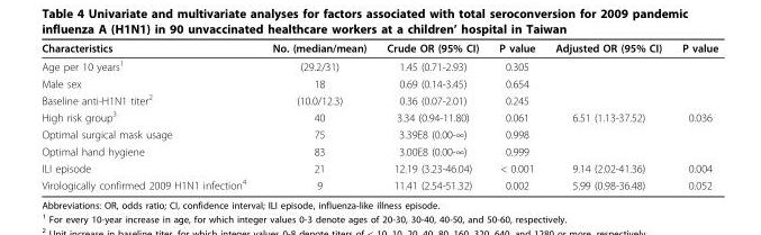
<table><thead><tr><td>Characteristics</td><td>No. (median/mean)</td><td>Crude OR (95% CI)</td><td>P value</td><td>Adjusted OR (95% CI)</td><td>P value</td></tr></thead><tbody><tr><td>Age per 10 years<sup>1</sup></td><td>(29.2/31)</td><td>1.45 (0.71-2.93)</td><td>0.305</td><td></td><td></td></tr><tr><td>Male sex</td><td>18</td><td>0.69 (0.14-3.45)</td><td>0.654</td><td></td><td></td></tr><tr><td>Baseline anti-H1N1 titer<sup>2</sup></td><td>(10.0/12.3)</td><td>0.36 (0.07-2.01)</td><td>0.245</td><td></td><td></td></tr><tr><td>High risk group<sup>3</sup></td><td>40</td><td>3.34 (0.94-11.80)</td><td>0.061</td><td>6.51 (1.13-37.52)</td><td>0.036</td></tr><tr><td>Optimal surgical mask usage</td><td>75</td><td>3.39E8 (0.00-∞)</td><td>0.998</td><td></td><td></td></tr><tr><td>Optimal hand hygiene</td><td>83</td><td>3.00E8 (0.00-∞)</td><td>0.999</td><td></td><td></td></tr><tr><td>ILI episode</td><td>21</td><td>12.19 (3.23-46.04)</td><td>&lt; 0.001</td><td>9.14 (2.02-41.36)</td><td>0.004</td></tr><tr><td>Virologically confirmed 2009 H1N1 infection<sup>4</sup></td><td>9</td><td>11.41 (2.54-51.32)</td><td>0.002</td><td>5.99 (0.98-36.48)</td><td>0.052</td></tr></tbody></table>